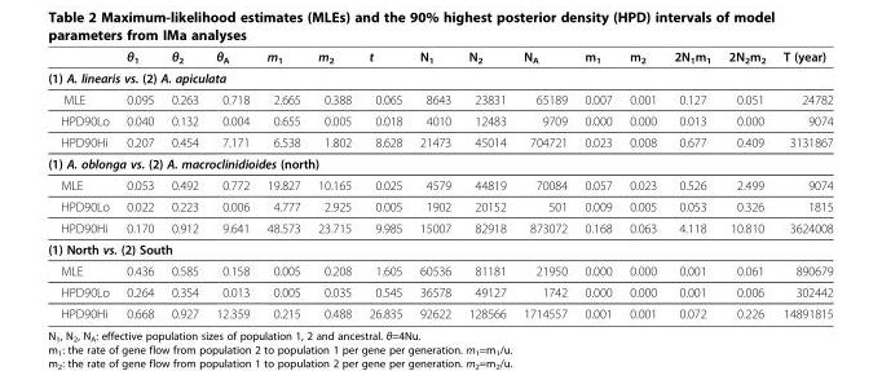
<table><thead><tr><td></td><td>θ<sub>1</sub></td><td>θ<sub>2</sub></td><td>θ<sub>A</sub></td><td>m<sub>1</sub></td><td>m<sub>2</sub></td><td>t</td><td>N<sub>1</sub></td><td>N<sub>2</sub></td><td>N<sub>A</sub></td><td>m<sub>1</sub></td><td>m<sub>2</sub></td><td>2N<sub>1</sub>m<sub>1</sub></td><td>2N<sub>2</sub>m<sub>2</sub></td><td>T (year)</td></tr></thead><tbody><tr><td colspan="15">(1) A. linearis vs. (2) A. apiculata</td></tr><tr><td>MLE</td><td>0.095</td><td>0.263</td><td>0.718</td><td>2.665</td><td>0.388</td><td>0.065</td><td>8643</td><td>23831</td><td>65189</td><td>0.007</td><td>0.001</td><td>0.127</td><td>0.051</td><td>24782</td></tr><tr><td>HPD90Lo</td><td>0.040</td><td>0.132</td><td>0.004</td><td>0.655</td><td>0.005</td><td>0.018</td><td>4010</td><td>12483</td><td>9709</td><td>0.000</td><td>0.000</td><td>0.013</td><td>0.000</td><td>9074</td></tr><tr><td>HPD90Hi</td><td>0.207</td><td>0.454</td><td>7.171</td><td>6.538</td><td>1.802</td><td>8.628</td><td>21473</td><td>45014</td><td>704721</td><td>0.023</td><td>0.008</td><td>0.677</td><td>0.409</td><td>3131867</td></tr><tr><td colspan="15">(1) A. oblonga vs. (2) A. macroclinidioides (north)</td></tr><tr><td>MLE</td><td>0.053</td><td>0.492</td><td>0.772</td><td>19.827</td><td>10.165</td><td>0.025</td><td>4579</td><td>44819</td><td>70084</td><td>0.057</td><td>0.023</td><td>0.526</td><td>2.499</td><td>9074</td></tr><tr><td>HPD90Lo</td><td>0.022</td><td>0.223</td><td>0.006</td><td>4.777</td><td>2.925</td><td>0.005</td><td>1902</td><td>20152</td><td>501</td><td>0.009</td><td>0.005</td><td>0.053</td><td>0.326</td><td>1815</td></tr><tr><td>HPD90Hi</td><td>0.170</td><td>0.912</td><td>9.641</td><td>48.573</td><td>23.715</td><td>9.985</td><td>15007</td><td>82918</td><td>873072</td><td>0.168</td><td>0.063</td><td>4.118</td><td>10.810</td><td>3624008</td></tr><tr><td colspan="15">(1) North vs. (2) South</td></tr><tr><td>MLE</td><td>0.436</td><td>0.585</td><td>0.158</td><td>0.005</td><td>0.208</td><td>1.605</td><td>60536</td><td>81181</td><td>21950</td><td>0.000</td><td>0.000</td><td>0.001</td><td>0.061</td><td>890679</td></tr><tr><td>HPD90Lo</td><td>0.264</td><td>0.354</td><td>0.013</td><td>0.005</td><td>0.035</td><td>0.545</td><td>36578</td><td>49127</td><td>1742</td><td>0.000</td><td>0.000</td><td>0.001</td><td>0.006</td><td>302442</td></tr><tr><td>HPD90Hi</td><td>0.668</td><td>0.927</td><td>12.359</td><td>0.215</td><td>0.488</td><td>26.835</td><td>92622</td><td>128566</td><td>1714557</td><td>0.001</td><td>0.001</td><td>0.072</td><td>0.226</td><td>14891815</td></tr></tbody></table>